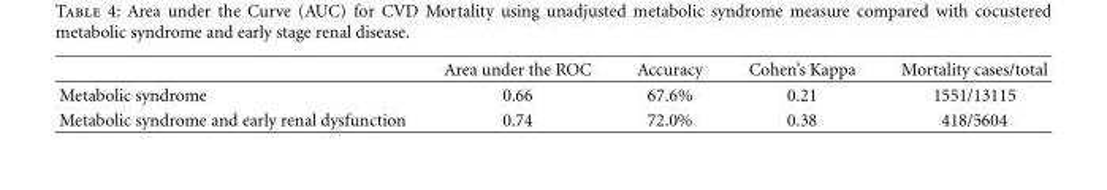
<table><thead><tr><td></td><td>Area under the ROC</td><td>Accuracy</td><td>Cohen’s Kappa</td><td>Mortality cases/total</td></tr></thead><tbody><tr><td>Metabolic syndrome</td><td>0.66</td><td>67.6%</td><td>0.21</td><td>1551/13115</td></tr><tr><td>Metabolic syndrome and early renal dysfunction</td><td>0.74</td><td>72.0%</td><td>0.38</td><td>418/5604</td></tr></tbody></table>